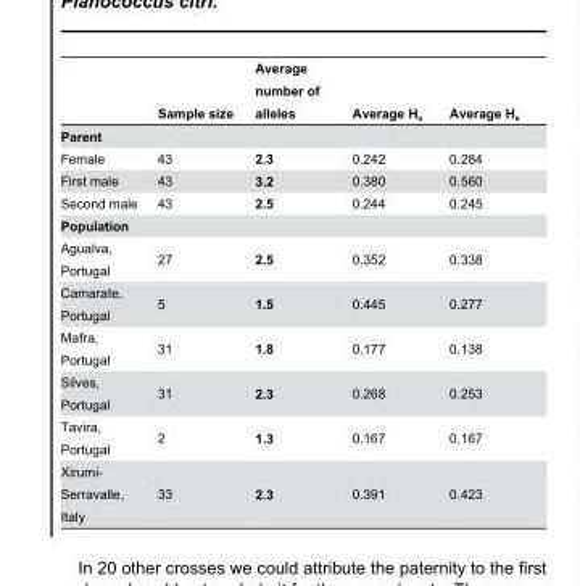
<table><thead><tr><td></td><td>Sample size</td><td>Average number of alleles</td><td>Average H<sub>o</sub></td><td>Average H<sub>e</sub></td></tr></thead><tbody><tr><td colspan="5">Parent</td></tr><tr><td>Female</td><td>43</td><td>2.3</td><td>0.242</td><td>0.284</td></tr><tr><td>First male</td><td>43</td><td>3.2</td><td>0.380</td><td>0.560</td></tr><tr><td>Second male</td><td>43</td><td>2.5</td><td>0.244</td><td>0.245</td></tr><tr><td colspan="5">Population</td></tr><tr><td>Agualva, Portugal</td><td>27</td><td>2.5</td><td>0.352</td><td>0.338</td></tr><tr><td>Camarate, Portugal</td><td>5</td><td>1.5</td><td>0.445</td><td>0.277</td></tr><tr><td>Mafra, Portugal</td><td>31</td><td>1.8</td><td>0.177</td><td>0.138</td></tr><tr><td>Silves, Portugal</td><td>31</td><td>2.3</td><td>0.268</td><td>0.253</td></tr><tr><td>Tavira, Portugal</td><td>2</td><td>1.3</td><td>0.167</td><td>0.167</td></tr><tr><td>Xirumi- Serravalle, Italy</td><td>33</td><td>2.3</td><td>0.391</td><td>0.423</td></tr></tbody></table>